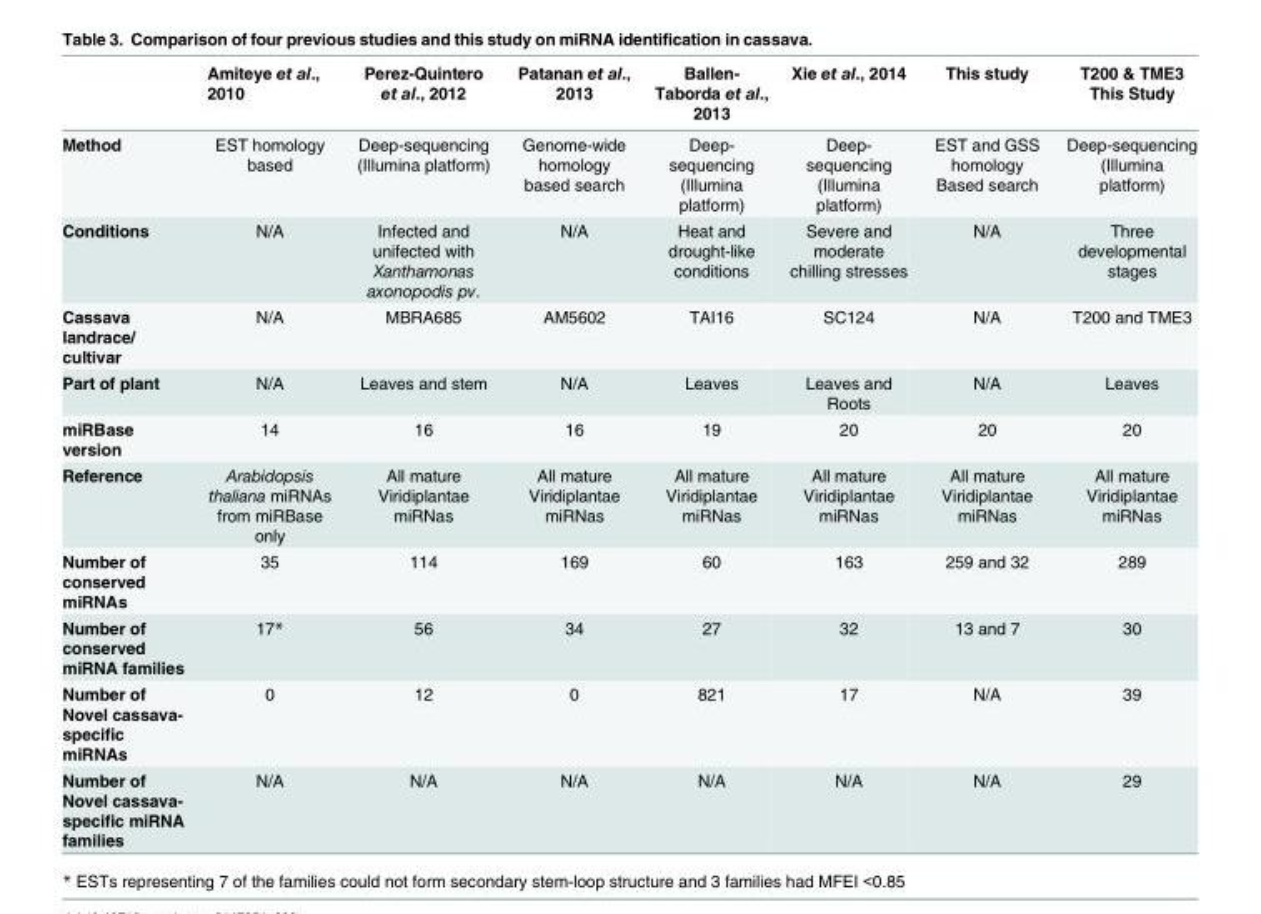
<table><thead><tr><td></td><td>Amiteye et al., 2010</td><td>Perez-Quintero et al., 2012</td><td>Patanan et al., 2013</td><td>Ballen- Taborda et al., 2013</td><td>Xie et al., 2014</td><td>This study</td><td>T200 &amp; TME3 This Study</td></tr></thead><tbody><tr><td>Method</td><td>EST homology based</td><td>Deep-sequencing (Illumina platform)</td><td>Genome-wide homology based search</td><td>Deep- sequencing (Illumina platform)</td><td>Deep- sequencing (Illumina platform)</td><td>EST and GSS homology Based search</td><td>Deep-sequencing (Illumina platform)</td></tr><tr><td>Conditions</td><td>N/A</td><td>Infected and unifected with Xanthamonas axonopodis pv.</td><td>N/A</td><td>Heat and drought-like conditions</td><td>Severe and moderate chilling stresses</td><td>N/A</td><td>Three developmental stages</td></tr><tr><td>Cassava landrace/ cultivar</td><td>N/A</td><td>MBRA685</td><td>AM5602</td><td>TAI16</td><td>SC124</td><td>N/A</td><td>T200 and TME3</td></tr><tr><td>Part of plant</td><td>N/A</td><td>Leaves and stem</td><td>N/A</td><td>Leaves</td><td>Leaves and Roots</td><td>N/A</td><td>Leaves</td></tr><tr><td>miRBase version</td><td>14</td><td>16</td><td>16</td><td>19</td><td>20</td><td>20</td><td>20</td></tr><tr><td>Reference</td><td>Arabidopsis thaliana miRNAs from miRBase only</td><td>All mature Viridiplantae miRNas</td><td>All mature Viridiplantae miRNas</td><td>All mature Viridiplantae miRNas</td><td>All mature Viridiplantae miRNas</td><td>All mature Viridiplantae miRNas</td><td>All mature Viridiplantae miRNas</td></tr><tr><td>Number of conserved miRNAs</td><td>35</td><td>114</td><td>169</td><td>60</td><td>163</td><td>259 and 32</td><td>289</td></tr><tr><td>Number of conserved miRNA families</td><td>17*</td><td>56</td><td>34</td><td>27</td><td>32</td><td>13 and 7</td><td>30</td></tr><tr><td>Number of Novel cassava- specific miRNAs</td><td>0</td><td>12</td><td>0</td><td>821</td><td>17</td><td>N/A</td><td>39</td></tr><tr><td>Number of Novel cassava- specific miRNA families</td><td>N/A</td><td>N/A</td><td>N/A</td><td>N/A</td><td>N/A</td><td>N/A</td><td>29</td></tr></tbody></table>